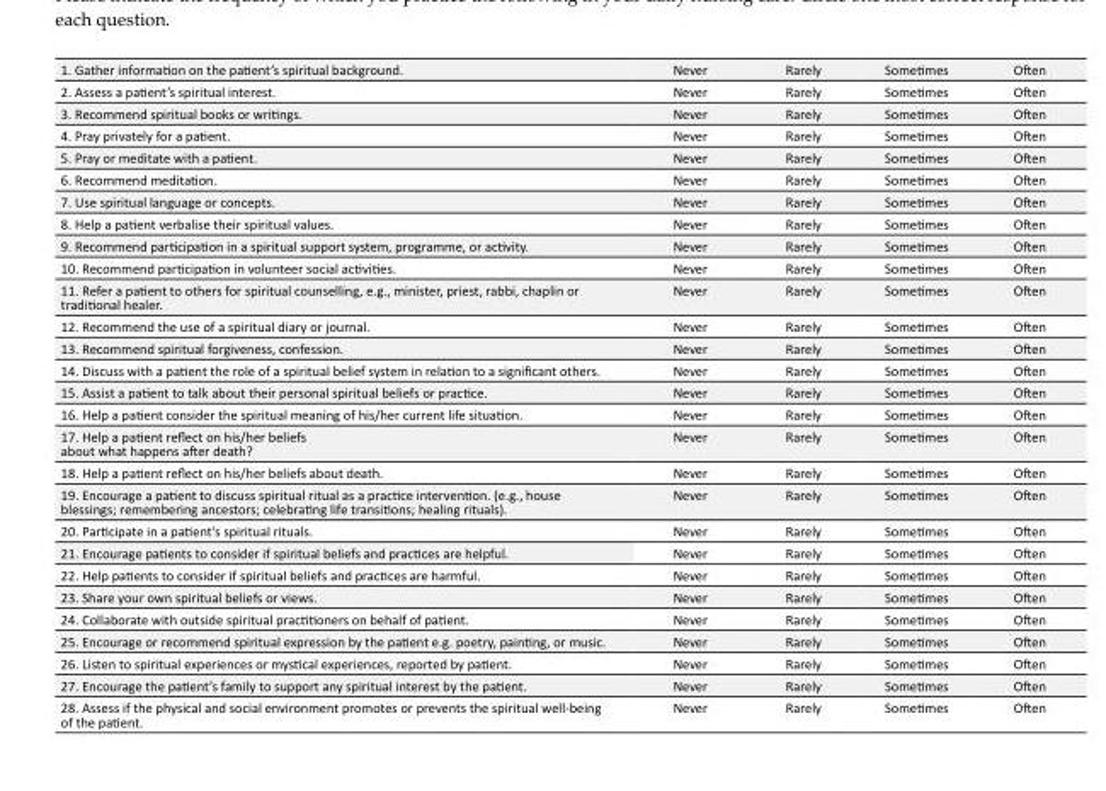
<table><tbody><tr><td>1. Gather information on the patient’s spiritual background.</td><td>Never</td><td>Rarely</td><td>Sometimes</td><td>Often</td></tr><tr><td>2. Assess a patient’s spiritual interest.</td><td>Never</td><td>Rarely</td><td>Sometimes</td><td>Often</td></tr><tr><td>3. Recommend spiritual books or writings.</td><td>Never</td><td>Rarely</td><td>Sometimes</td><td>Often</td></tr><tr><td>4. Pray privately for a patient.</td><td>Never</td><td>Rarely</td><td>Sometimes</td><td>Often</td></tr><tr><td>5. Pray or meditate with a patient.</td><td>Never</td><td>Rarely</td><td>Sometimes</td><td>Often</td></tr><tr><td>6. Recommend meditation.</td><td>Never</td><td>Rarely</td><td>Sometimes</td><td>Often</td></tr><tr><td>7. Use spiritual language or concepts.</td><td>Never</td><td>Rarely</td><td>Sometimes</td><td>Often</td></tr><tr><td>8. Help a patient verbalise their spiritual values.</td><td>Never</td><td>Rarely</td><td>Sometimes</td><td>Often</td></tr><tr><td>9. Recommend participation in a spiritual support system, programme, or activity.</td><td>Never</td><td>Rarely</td><td>Sometimes</td><td>Often</td></tr><tr><td>10. Recommend participation in volunteer social activities.</td><td>Never</td><td>Rarely</td><td>Sometimes</td><td>Often</td></tr><tr><td>11. Refer a patient to others for spiritual counselling, e.g., minister, priest, rabbi, chaplin or traditional healer.</td><td>Never</td><td>Rarely</td><td>Sometimes</td><td>Often</td></tr><tr><td>12. Recommend the use of a spiritual diary or journal.</td><td>Never</td><td>Rarely</td><td>Sometimes</td><td>Often</td></tr><tr><td>13. Recommend spiritual forgiveness, confession.</td><td>Never</td><td>Rarely</td><td>Sometimes</td><td>Often</td></tr><tr><td>14. Discuss with a patient the role of a spiritual belief system in relation to a significant others.</td><td>Never</td><td>Rarely</td><td>Sometimes</td><td>Often</td></tr><tr><td>15. Assist a patient to talk about their personal spiritual beliefs or practice.</td><td>Never</td><td>Rarely</td><td>Sometimes</td><td>Often</td></tr><tr><td>16. Help a patient consider the spiritual meaning of his/her current life situation.</td><td>Never</td><td>Rarely</td><td>Sometimes</td><td>Often</td></tr><tr><td>17. Help a patient reflect on his/her beliefs about what happens after death?</td><td>Never</td><td>Rarely</td><td>Sometimes</td><td>Often</td></tr><tr><td>18. Help a patient reflect on his/her beliefs about death.</td><td>Never</td><td>Rarely</td><td>Sometimes</td><td>Often</td></tr><tr><td>19. Encourage a patient to discuss spiritual ritual as a practice intervention. (e.g., house blessings; remembering ancestors; celebrating life transitions; healing rituals).</td><td>Never</td><td>Rarely</td><td>Sometimes</td><td>Often</td></tr><tr><td>20. Participate in a patient’s spiritual rituals.</td><td>Never</td><td>Rarely</td><td>Sometimes</td><td>Often</td></tr><tr><td>21. Encourage patients to consider if spiritual beliefs and practices are helpful.</td><td>Never</td><td>Rarely</td><td>Sometimes</td><td>Often</td></tr><tr><td>22. Help patients to consider if spiritual beliefs and practices are harmful.</td><td>Never</td><td>Rarely</td><td>Sometimes</td><td>Often</td></tr><tr><td>23. Share your own spiritual beliefs or views.</td><td>Never</td><td>Rarely</td><td>Sometimes</td><td>Often</td></tr><tr><td>24. Collaborate with outside spiritual practitioners on behalf of patient.</td><td>Never</td><td>Rarely</td><td>Sometimes</td><td>Often</td></tr><tr><td>25. Encourage or recommend spiritual expression by the patient e.g. poetry, painting, or music.</td><td>Never</td><td>Rarely</td><td>Sometimes</td><td>Often</td></tr><tr><td>26. Listen to spiritual experiences or mystical experiences, reported by patient.</td><td>Never</td><td>Rarely</td><td>Sometimes</td><td>Often</td></tr><tr><td>27. Encourage the patient’s family to support any spiritual interest by the patient.</td><td>Never</td><td>Rarely</td><td>Sometimes</td><td>Often</td></tr><tr><td>28. Assess if the physical and social environment promotes or prevents the spiritual well-being of the patient.</td><td>Never</td><td>Rarely</td><td>Sometimes</td><td>Often</td></tr></tbody></table>